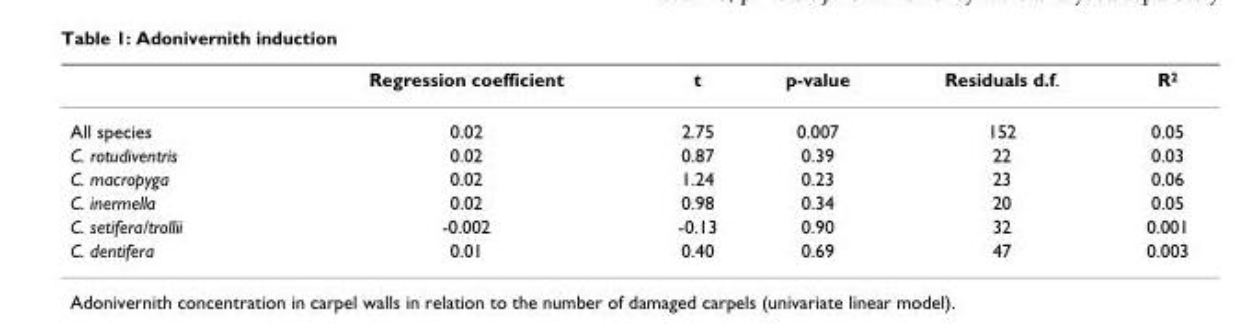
<table><thead><tr><td></td><td>Regression coefficient</td><td>t</td><td>p-value</td><td>Residuals d.f.</td><td>R<sup>2</sup></td></tr></thead><tbody><tr><td>All species</td><td>0.02</td><td>2.75</td><td>0.007</td><td>152</td><td>0.05</td></tr><tr><td>C. rotudiventris</td><td>0.02</td><td>0.87</td><td>0.39</td><td>22</td><td>0.03</td></tr><tr><td>C. macropyga</td><td>0.02</td><td>1.24</td><td>0.23</td><td>23</td><td>0.06</td></tr><tr><td>C. inermella</td><td>0.02</td><td>0.98</td><td>0.34</td><td>20</td><td>0.05</td></tr><tr><td>C. setifera/trollii</td><td>-0.002</td><td>-0.13</td><td>0.90</td><td>32</td><td>0.001</td></tr><tr><td>C. dentifera</td><td>0.01</td><td>0.40</td><td>0.69</td><td>47</td><td>0.003</td></tr></tbody></table>